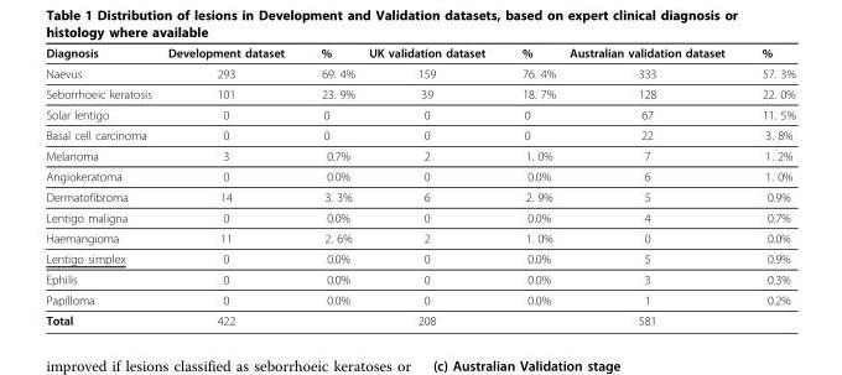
<table><thead><tr><td>Diagnosis</td><td>Development dataset</td><td>%</td><td>UK validation dataset</td><td>%</td><td>Australian validation dataset</td><td>%</td></tr></thead><tbody><tr><td>Naevus</td><td>293</td><td>69. 4%</td><td>159</td><td>76. 4%</td><td>333</td><td>57. 3%</td></tr><tr><td>Seborrhoeic keratosis</td><td>101</td><td>23. 9%</td><td>39</td><td>18. 7%</td><td>128</td><td>22. 0%</td></tr><tr><td>Solar lentigo</td><td>0</td><td>0</td><td>0</td><td>0</td><td>67</td><td>11. 5%</td></tr><tr><td>Basal cell carcinoma</td><td>0</td><td>0</td><td>0</td><td>0</td><td>22</td><td>3. 8%</td></tr><tr><td>Melanoma</td><td>3</td><td>0.7%</td><td>2</td><td>1. 0%</td><td>7</td><td>1. 2%</td></tr><tr><td>Angiokeratoma</td><td>0</td><td>0.0%</td><td>0</td><td>0.0%</td><td>6</td><td>1. 0%</td></tr><tr><td>Dermatofibroma</td><td>14</td><td>3. 3%</td><td>6</td><td>2. 9%</td><td>5</td><td>0.9%</td></tr><tr><td>Lentigo maligna</td><td>0</td><td>0.0%</td><td>0</td><td>0.0%</td><td>4</td><td>0.7%</td></tr><tr><td>Haemangioma</td><td>11</td><td>2. 6%</td><td>2</td><td>1. 0%</td><td>0</td><td>0.0%</td></tr><tr><td>Lentigo simplex</td><td>0</td><td>0.0%</td><td>0</td><td>0.0%</td><td>5</td><td>0.9%</td></tr><tr><td>Ephilis</td><td>0</td><td>0.0%</td><td>0</td><td>0.0%</td><td>3</td><td>0.3%</td></tr><tr><td>Papilloma</td><td>0</td><td>0.0%</td><td>0</td><td>0.0%</td><td>1</td><td>0.2%</td></tr><tr><td>Total</td><td>422</td><td></td><td>208</td><td></td><td>581</td><td></td></tr></tbody></table>